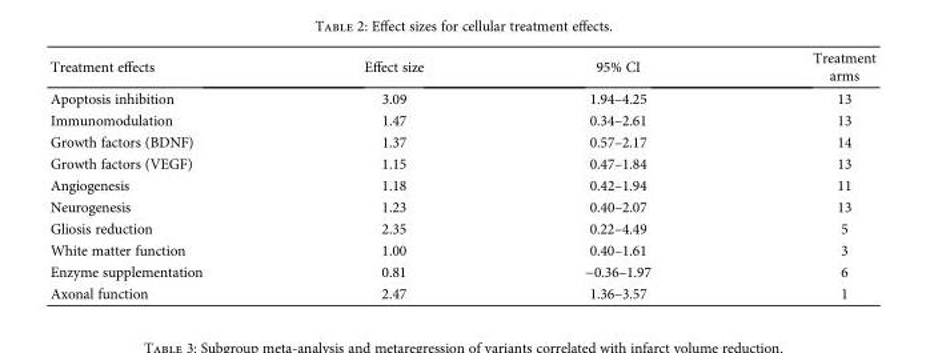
<table><thead><tr><td>Treatment effects</td><td>Effect size</td><td>95% CI</td><td>Treatment arms</td></tr></thead><tbody><tr><td>Apoptosis inhibition</td><td>3.09</td><td>1.94–4.25</td><td>13</td></tr><tr><td>Immunomodulation</td><td>1.47</td><td>0.34–2.61</td><td>13</td></tr><tr><td>Growth factors (BDNF)</td><td>1.37</td><td>0.57–2.17</td><td>14</td></tr><tr><td>Growth factors (VEGF)</td><td>1.15</td><td>0.47–1.84</td><td>13</td></tr><tr><td>Angiogenesis</td><td>1.18</td><td>0.42–1.94</td><td>11</td></tr><tr><td>Neurogenesis</td><td>1.23</td><td>0.40–2.07</td><td>13</td></tr><tr><td>Gliosis reduction</td><td>2.35</td><td>0.22–4.49</td><td>5</td></tr><tr><td>White matter function</td><td>1.00</td><td>0.40–1.61</td><td>3</td></tr><tr><td>Enzyme supplementation</td><td>0.81</td><td>−0.36–1.97</td><td>6</td></tr><tr><td>Axonal function</td><td>2.47</td><td>1.36–3.57</td><td>1</td></tr></tbody></table>